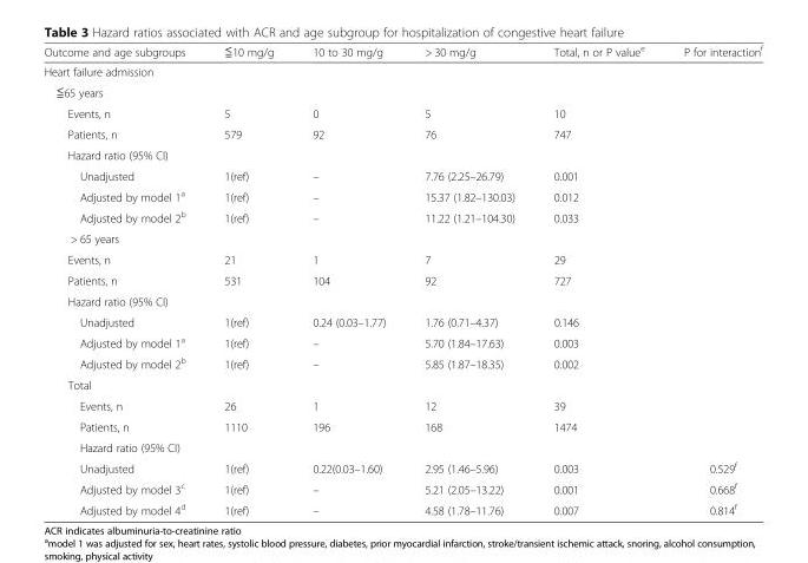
<table><thead><tr><td>Outcome and age subgroups</td><td>≦10 mg/g</td><td>10 to 30 mg/g</td><td>&gt; 30 mg/g</td><td>Total, n or P value<sup>e</sup></td><td>P for interaction<sup>f</sup></td></tr></thead><tbody><tr><td colspan="6">Heart failure admission</td></tr><tr><td colspan="6">≦65 years</td></tr><tr><td>Events, n</td><td>5</td><td>0</td><td>5</td><td>10</td><td></td></tr><tr><td>Patients, n</td><td>579</td><td>92</td><td>76</td><td>747</td><td></td></tr><tr><td colspan="6">Hazard ratio (95% CI)</td></tr><tr><td>Unadjusted</td><td>1(ref)</td><td>–</td><td>7.76 (2.25–26.79)</td><td>0.001</td><td></td></tr><tr><td>Adjusted by model 1<sup>a</sup></td><td>1(ref)</td><td>–</td><td>15.37 (1.82–130.03)</td><td>0.012</td><td></td></tr><tr><td>Adjusted by model 2<sup>b</sup></td><td>1(ref)</td><td>–</td><td>11.22 (1.21–104.30)</td><td>0.033</td><td></td></tr><tr><td colspan="6">&gt; 65 years</td></tr><tr><td>Events, n</td><td>21</td><td>1</td><td>7</td><td>29</td><td></td></tr><tr><td>Patients, n</td><td>531</td><td>104</td><td>92</td><td>727</td><td></td></tr><tr><td colspan="6">Hazard ratio (95% CI)</td></tr><tr><td>Unadjusted</td><td>1(ref)</td><td>0.24 (0.03–1.77)</td><td>1.76 (0.71–4.37)</td><td>0.146</td><td></td></tr><tr><td>Adjusted by model 1<sup>a</sup></td><td>1(ref)</td><td>–</td><td>5.70 (1.84–17.63)</td><td>0.003</td><td></td></tr><tr><td>Adjusted by model 2<sup>b</sup></td><td>1(ref)</td><td>–</td><td>5.85 (1.87–18.35)</td><td>0.002</td><td></td></tr><tr><td colspan="6">Total</td></tr><tr><td>Events, n</td><td>26</td><td>1</td><td>12</td><td>39</td><td></td></tr><tr><td>Patients, n</td><td>1110</td><td>196</td><td>168</td><td>1474</td><td></td></tr><tr><td colspan="6">Hazard ratio (95% CI)</td></tr><tr><td>Unadjusted</td><td>1(ref)</td><td>0.22(0.03–1.60)</td><td>2.95 (1.46–5.96)</td><td>0.003</td><td>0.529<sup>f</sup></td></tr><tr><td>Adjusted by model 3<sup>c</sup></td><td>1(ref)</td><td>–</td><td>5.21 (2.05–13.22)</td><td>0.001</td><td>0.668<sup>f</sup></td></tr><tr><td>Adjusted by model 4<sup>d</sup></td><td>1(ref)</td><td>–</td><td>4.58 (1.78–11.76)</td><td>0.007</td><td>0.814<sup>f</sup></td></tr></tbody></table>